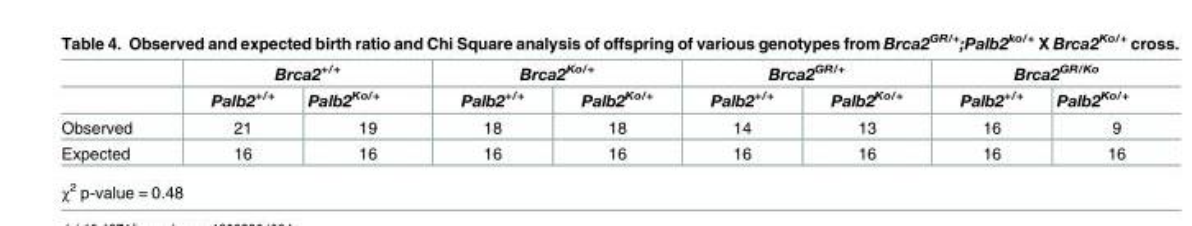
<table><thead><tr><td rowspan="2"></td><td colspan="2">Brca2<sup>+/+</sup></td><td colspan="2">Brca2<sup>Ko/+</sup></td><td colspan="2">Brca2<sup>GR/+</sup></td><td colspan="2">Brca2<sup>GR/Ko</sup></td></tr><tr><td>Palb2<sup>+/+</sup></td><td>Palb2<sup>Ko/+</sup></td><td>Palb2<sup>+/+</sup></td><td>Palb2<sup>Ko/+</sup></td><td>Palb2<sup>+/+</sup></td><td>Palb2<sup>Ko/+</sup></td><td>Palb2<sup>+/+</sup></td><td>Palb2<sup>Ko/+</sup></td></tr></thead><tbody><tr><td>Observed</td><td>21</td><td>19</td><td>18</td><td>18</td><td>14</td><td>13</td><td>16</td><td>9</td></tr><tr><td>Expected</td><td>16</td><td>16</td><td>16</td><td>16</td><td>16</td><td>16</td><td>16</td><td>16</td></tr></tbody></table>